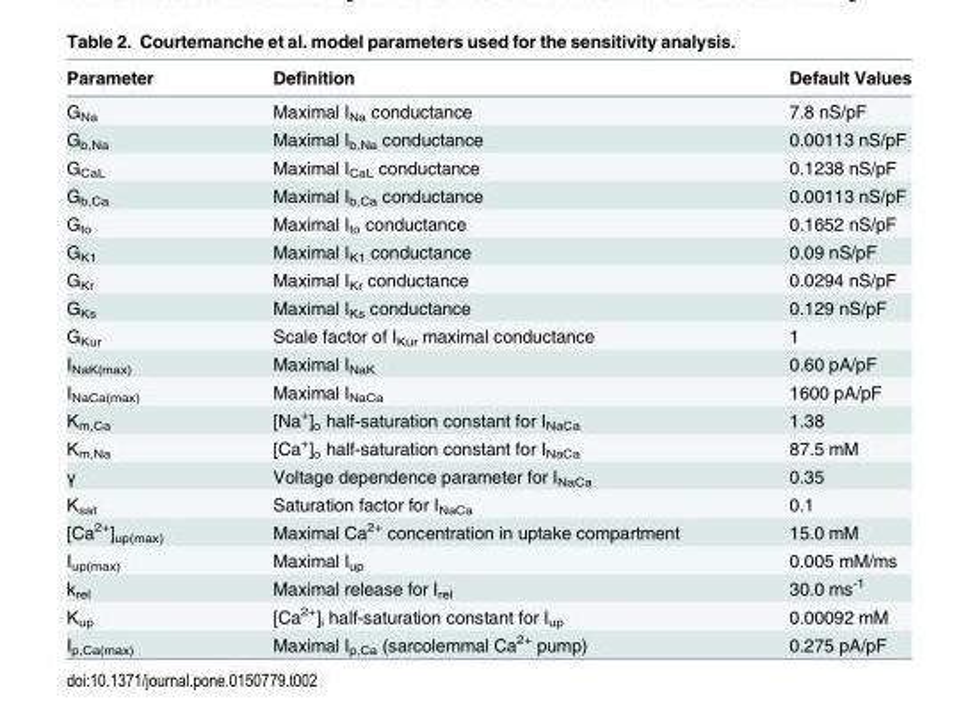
<table><thead><tr><td>Parameter</td><td>Definition</td><td>Default Values</td></tr></thead><tbody><tr><td>G<sub>Na</sub></td><td>Maximal I<sub>Na</sub> conductance</td><td>7.8 nS/pF</td></tr><tr><td>G<sub>b,Na</sub></td><td>Maximal I<sub>b,Na</sub> conductance</td><td>0.00113 nS/pF</td></tr><tr><td>G<sub>CaL</sub></td><td>Maximal I<sub>CaL</sub> conductance</td><td>0.1238 nS/pF</td></tr><tr><td>G<sub>b,Ca</sub></td><td>Maximal I<sub>b,Ca</sub> conductance</td><td>0.00113 nS/pF</td></tr><tr><td>G<sub>to</sub></td><td>Maximal I<sub>to</sub> conductance</td><td>0.1652 nS/pF</td></tr><tr><td>G<sub>K1</sub></td><td>Maximal I<sub>K1</sub> conductance</td><td>0.09 nS/pF</td></tr><tr><td>G<sub>Kr</sub></td><td>Maximal I<sub>Kr</sub> conductance</td><td>0.0294 nS/pF</td></tr><tr><td>G<sub>Ks</sub></td><td>Maximal I<sub>Ks</sub> conductance</td><td>0.129 nS/pF</td></tr><tr><td>G<sub>Kur</sub></td><td>Scale factor of I<sub>Kur</sub> maximal conductance</td><td>1</td></tr><tr><td>I<sub>NaK(max)</sub></td><td>Maximal I<sub>NaK</sub></td><td>0.60 pA/pF</td></tr><tr><td>I<sub>NaCa(max)</sub></td><td>Maximal I<sub>NaCa</sub></td><td>1600 pA/pF</td></tr><tr><td>K<sub>m,Ca</sub></td><td>[Na<sup>+</sup>]<sub>o</sub> half-saturation constant for I<sub>NaCa</sub></td><td>1.38</td></tr><tr><td>K<sub>m,Na</sub></td><td>[Ca<sup>+</sup>]<sub>o</sub> half-saturation constant for I<sub>NaCa</sub></td><td>87.5 mM</td></tr><tr><td>γ</td><td>Voltage dependence parameter for I<sub>NaCa</sub></td><td>0.35</td></tr><tr><td>K<sub>sat</sub></td><td>Saturation factor for I<sub>NaCa</sub></td><td>0.1</td></tr><tr><td>[Ca<sup>2+</sup>]<sub>up(max)</sub></td><td>Maximal Ca<sup>2+</sup> concentration in uptake compartment</td><td>15.0 mM</td></tr><tr><td>I<sub>up(max)</sub></td><td>Maximal I<sub>up</sub></td><td>0.005 mM/ms</td></tr><tr><td>k<sub>rel</sub></td><td>Maximal release for I<sub>rel</sub></td><td>30.0 ms<sup>-1</sup></td></tr><tr><td>K<sub>up</sub></td><td>[Ca<sup>2+</sup>]<sub>i</sub> half-saturation constant for I<sub>up</sub></td><td>0.00092 mM</td></tr><tr><td>I<sub>p,Ca(max)</sub></td><td>Maximal I<sub>p,Ca</sub> (sarcolemmal Ca<sup>2+</sup> pump)</td><td>0.275 pA/pF</td></tr></tbody></table>